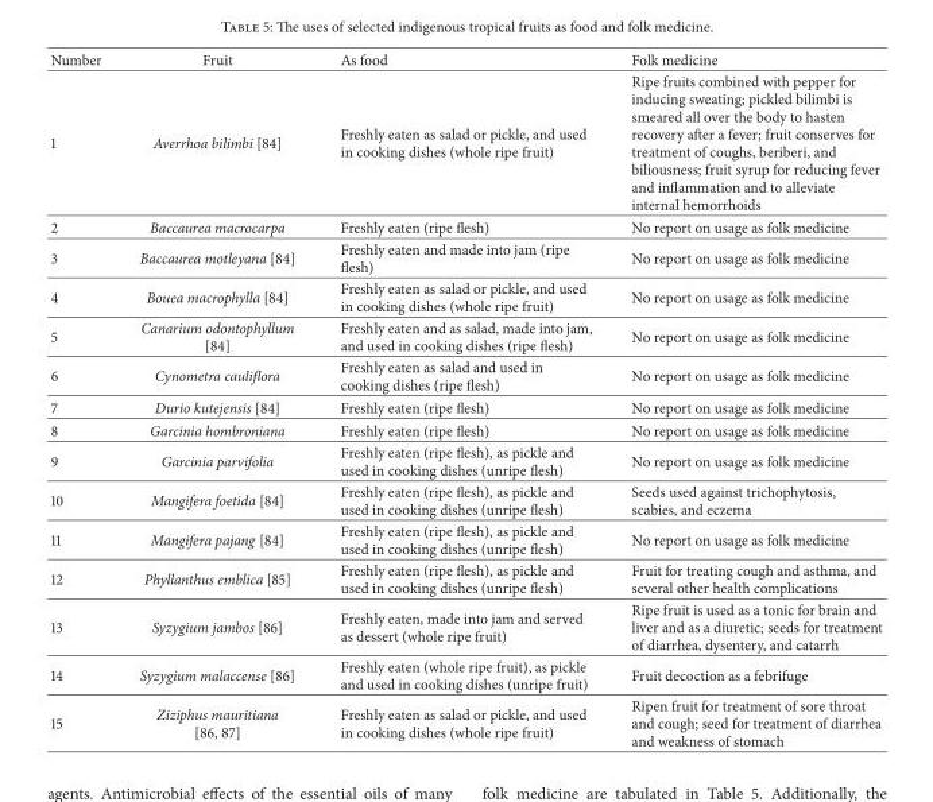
<table><thead><tr><td>Number</td><td>Fruit</td><td>As food</td><td>Folk medicine</td></tr></thead><tbody><tr><td>1</td><td>Averrhoa bilimbi [84]</td><td>Freshly eaten as salad or pickle, and used in cooking dishes (whole ripe fruit)</td><td>Ripe fruits combined with pepper for inducing sweating; pickled bilimbi is smeared all over the body to hasten recovery after a fever; fruit conserves for treatment of coughs, beriberi, and biliousness; fruit syrup for reducing fever and inflammation and to alleviate internal hemorrhoids</td></tr><tr><td>2</td><td>Baccaurea macrocarpa</td><td>Freshly eaten (ripe flesh)</td><td>No report on usage as folk medicine</td></tr><tr><td>3</td><td>Baccaurea motleyana [84]</td><td>Freshly eaten and made into jam (ripe flesh)</td><td>No report on usage as folk medicine</td></tr><tr><td>4</td><td>Bouea macrophylla [84]</td><td>Freshly eaten as salad or pickle, and used in cooking dishes (whole ripe fruit)</td><td>No report on usage as folk medicine</td></tr><tr><td>5</td><td>Canarium odontophyllum [84]</td><td>Freshly eaten and as salad, made into jam, and used in cooking dishes (ripe flesh)</td><td>No report on usage as folk medicine</td></tr><tr><td>6</td><td>Cynometra cauliflora</td><td>Freshly eaten as salad and used in cooking dishes (ripe flesh)</td><td>No report on usage as folk medicine</td></tr><tr><td>7</td><td>Durio kutejensis [84]</td><td>Freshly eaten (ripe flesh)</td><td>No report on usage as folk medicine</td></tr><tr><td>8</td><td>Garcinia hombroniana</td><td>Freshly eaten (ripe flesh)</td><td>No report on usage as folk medicine</td></tr><tr><td>9</td><td>Garcinia parvifolia</td><td>Freshly eaten (ripe flesh), as pickle and used in cooking dishes (unripe flesh)</td><td>No report on usage as folk medicine</td></tr><tr><td>10</td><td>Mangifera foetida [84]</td><td>Freshly eaten (ripe flesh), as pickle and used in cooking dishes (unripe flesh)</td><td>Seeds used against trichophytosis, scabies, and eczema</td></tr><tr><td>11</td><td>Mangifera pajang [84]</td><td>Freshly eaten (ripe flesh), as pickle and used in cooking dishes (unripe flesh)</td><td>No report on usage as folk medicine</td></tr><tr><td>12</td><td>Phyllanthus emblica [85]</td><td>Freshly eaten (ripe flesh), as pickle and used in cooking dishes (unripe flesh)</td><td>Fruit for treating cough and asthma, and several other health complications</td></tr><tr><td>13</td><td>Syzygium jambos [86]</td><td>Freshly eaten, made into jam and served as dessert (whole ripe fruit)</td><td>Ripe fruit is used as a tonic for brain and liver and as a diuretic; seeds for treatment of diarrhea, dysentery, and catarrh</td></tr><tr><td>14</td><td>Syzygium malaccense [86]</td><td>Freshly eaten (whole ripe fruit), as pickle and used in cooking dishes (unripe fruit)</td><td>Fruit decoction as a febrifuge</td></tr><tr><td>15</td><td>Ziziphus mauritiana [86, 87]</td><td>Freshly eaten as salad or pickle, and used in cooking dishes (whole ripe fruit)</td><td>Ripen fruit for treatment of sore throat and cough; seed for treatment of diarrhea and weakness of stomach</td></tr></tbody></table>